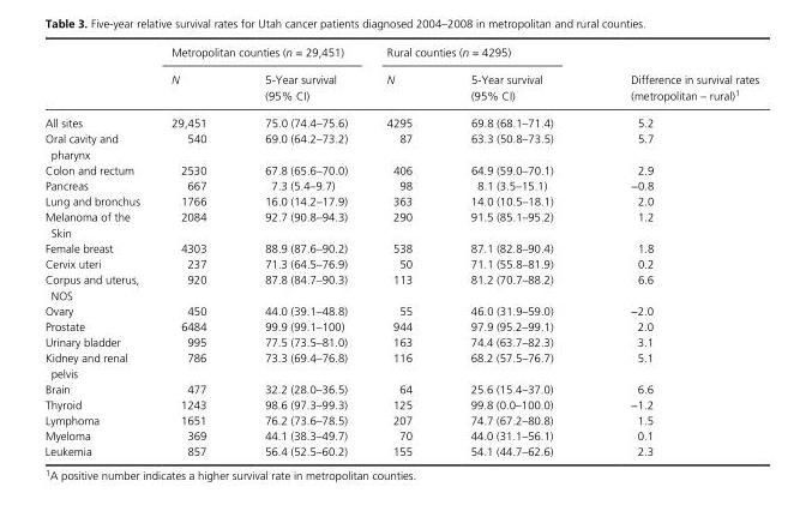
<table><thead><tr><td rowspan="2"></td><td colspan="2">Metropolitan counties (n = 29,451)</td><td colspan="2">Rural counties (n = 4295)</td><td rowspan="2">Difference in survival rates (metropolitan – rural)1</td></tr><tr><td>N</td><td>5- Year survival (95% CI)</td><td>N</td><td>5- Year survival (95% CI)</td></tr></thead><tbody><tr><td>All sites</td><td>29,451</td><td>75.0 (74.4–75.6)</td><td>4295</td><td>69.8 (68.1–71.4)</td><td>5.2</td></tr><tr><td>Oral cavity and pharynx</td><td>540</td><td>69.0 (64.2–73.2)</td><td>87</td><td>63.3 (50.8–73.5)</td><td>5.7</td></tr><tr><td>Colon and rectum</td><td>2530</td><td>67.8 (65.6–70.0)</td><td>406</td><td>64.9 (59.0–70.1)</td><td>2.9</td></tr><tr><td>Pancreas</td><td>667</td><td>7.3 (5.4–9.7)</td><td>98</td><td>8.1 (3.5–15.1)</td><td>−0.8</td></tr><tr><td>Lung and bronchus</td><td>1766</td><td>16.0 (14.2–17.9)</td><td>363</td><td>14.0 (10.5–18.1)</td><td>2.0</td></tr><tr><td>Melanoma of the Skin</td><td>2084</td><td>92.7 (90.8–94.3)</td><td>290</td><td>91.5 (85.1–95.2)</td><td>1.2</td></tr><tr><td>Female breast</td><td>4303</td><td>88.9 (87.6–90.2)</td><td>538</td><td>87.1 (82.8–90.4)</td><td>1.8</td></tr><tr><td>Cervix uteri</td><td>237</td><td>71.3 (64.5–76.9)</td><td>50</td><td>71.1 (55.8–81.9)</td><td>0.2</td></tr><tr><td>Corpus and uterus, NOS</td><td>920</td><td>87.8 (84.7–90.3)</td><td>113</td><td>81.2 (70.7–88.2)</td><td>6.6</td></tr><tr><td>Ovary</td><td>450</td><td>44.0 (39.1–48.8)</td><td>55</td><td>46.0 (31.9–59.0)</td><td>−2.0</td></tr><tr><td>Prostate</td><td>6484</td><td>99.9 (99.1–100)</td><td>944</td><td>97.9 (95.2–99.1)</td><td>2.0</td></tr><tr><td>Urinary bladder</td><td>995</td><td>77.5 (73.5–81.0)</td><td>163</td><td>74.4 (63.7–82.3)</td><td>3.1</td></tr><tr><td>Kidney and renal pelvis</td><td>786</td><td>73.3 (69.4–76.8)</td><td>116</td><td>68.2 (57.5–76.7)</td><td>5.1</td></tr><tr><td>Brain</td><td>477</td><td>32.2 (28.0–36.5)</td><td>64</td><td>25.6 (15.4–37.0)</td><td>6.6</td></tr><tr><td>Thyroid</td><td>1243</td><td>98.6 (97.3–99.3)</td><td>125</td><td>99.8 (0.0–100.0)</td><td>−1.2</td></tr><tr><td>Lymphoma</td><td>1651</td><td>76.2 (73.6–78.5)</td><td>207</td><td>74.7 (67.2–80.8)</td><td>1.5</td></tr><tr><td>Myeloma</td><td>369</td><td>44.1 (38.3–49.7)</td><td>70</td><td>44.0 (31.1–56.1)</td><td>0.1</td></tr><tr><td>Leukemia</td><td>857</td><td>56.4 (52.5–60.2)</td><td>155</td><td>54.1 (44.7–62.6)</td><td>2.3</td></tr></tbody></table>